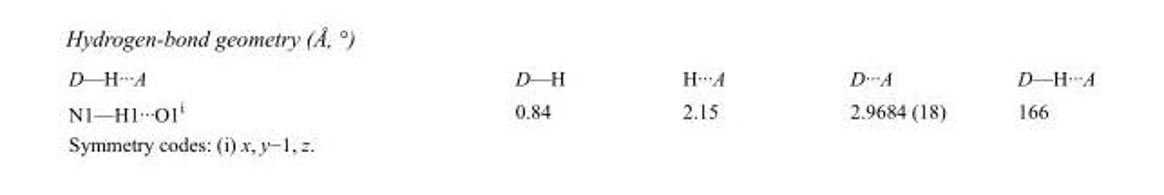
<table><tbody><tr><td>D—H···A</td><td>D—H</td><td>H···A</td><td>D···A</td><td>D—H···A</td></tr><tr><td>N1—H1···O1<sup>i</sup></td><td>0.84</td><td>2.15</td><td>2.9684 (18)</td><td>166</td></tr></tbody></table>